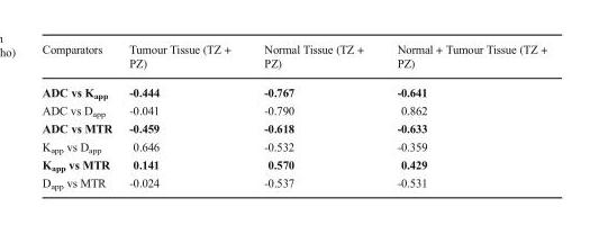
<table><thead><tr><td>Comparators</td><td>Tumour Tissue (TZ + PZ)</td><td>Normal Tissue (TZ + PZ)</td><td>Normal + Tumour Tissue (TZ + PZ)</td></tr></thead><tbody><tr><td>ADC vs K<sub>app</sub></td><td>-0.444</td><td>-0.767</td><td>-0.641</td></tr><tr><td>ADC vs D<sub>app</sub></td><td>-0.041</td><td>-0.790</td><td>0.862</td></tr><tr><td>ADC vs MTR</td><td>-0.459</td><td>-0.618</td><td>-0.633</td></tr><tr><td>K<sub>app</sub> vs D<sub>app</sub></td><td>0.646</td><td>-0.532</td><td>-0.359</td></tr><tr><td>K<sub>app</sub> vs MTR</td><td>0.141</td><td>0.570</td><td>0.429</td></tr><tr><td>D<sub>app</sub> vs MTR</td><td>-0.024</td><td>-0.537</td><td>-0.531</td></tr></tbody></table>